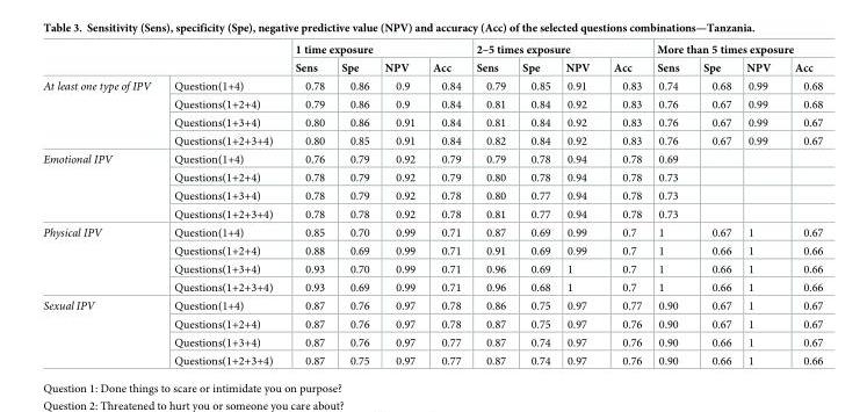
<table><thead><tr><td rowspan="2"></td><td rowspan="2"></td><td colspan="4">1 time exposure</td><td colspan="4">2–5 times exposure</td><td colspan="4">More than 5 times exposure</td></tr><tr><td>Sens</td><td>Spe</td><td>NPV</td><td>Acc</td><td>Sens</td><td>Spe</td><td>NPV</td><td>Acc</td><td>Sens</td><td>Spe</td><td>NPV</td><td>Acc</td></tr></thead><tbody><tr><td rowspan="4">At least one type of IPV</td><td>Question(1+4)</td><td>0.78</td><td>0.86</td><td>0.9</td><td>0.84</td><td>0.79</td><td>0.85</td><td>0.91</td><td>0.83</td><td>0.74</td><td>0.68</td><td>0.99</td><td>0.68</td></tr><tr><td>Questions(1+2+4)</td><td>0.79</td><td>0.86</td><td>0.9</td><td>0.84</td><td>0.81</td><td>0.84</td><td>0.92</td><td>0.83</td><td>0.76</td><td>0.67</td><td>0.99</td><td>0.68</td></tr><tr><td>Questions(1+3+4)</td><td>0.80</td><td>0.86</td><td>0.91</td><td>0.84</td><td>0.81</td><td>0.84</td><td>0.92</td><td>0.83</td><td>0.76</td><td>0.67</td><td>0.99</td><td>0.67</td></tr><tr><td>Questions(1+2+3+4)</td><td>0.80</td><td>0.85</td><td>0.91</td><td>0.84</td><td>0.82</td><td>0.84</td><td>0.92</td><td>0.83</td><td>0.76</td><td>0.67</td><td>0.99</td><td>0.67</td></tr><tr><td rowspan="4">Emotional IPV</td><td>Question(1+4)</td><td>0.76</td><td>0.79</td><td>0.92</td><td>0.79</td><td>0.79</td><td>0.78</td><td>0.94</td><td>0.78</td><td>0.69</td><td></td><td></td><td></td></tr><tr><td>Questions(1+2+4)</td><td>0.78</td><td>0.79</td><td>0.92</td><td>0.79</td><td>0.80</td><td>0.78</td><td>0.94</td><td>0.78</td><td>0.73</td><td></td><td></td><td></td></tr><tr><td>Questions(1+3+4)</td><td>0.78</td><td>0.79</td><td>0.92</td><td>0.78</td><td>0.80</td><td>0.77</td><td>0.94</td><td>0.78</td><td>0.73</td><td></td><td></td><td></td></tr><tr><td>Questions(1+2+3+4)</td><td>0.78</td><td>0.78</td><td>0.92</td><td>0.78</td><td>0.81</td><td>0.77</td><td>0.94</td><td>0.78</td><td>0.73</td><td></td><td></td><td></td></tr><tr><td rowspan="4">Physical IPV</td><td>Question(1+4)</td><td>0.85</td><td>0.70</td><td>0.99</td><td>0.71</td><td>0.87</td><td>0.69</td><td>0.99</td><td>0.7</td><td>1</td><td>0.67</td><td>1</td><td>0.67</td></tr><tr><td>Questions(1+2+4)</td><td>0.88</td><td>0.69</td><td>0.99</td><td>0.71</td><td>0.91</td><td>0.69</td><td>0.99</td><td>0.7</td><td>1</td><td>0.66</td><td>1</td><td>0.66</td></tr><tr><td>Questions(1+3+4)</td><td>0.93</td><td>0.70</td><td>0.99</td><td>0.71</td><td>0.96</td><td>0.69</td><td>1</td><td>0.7</td><td>1</td><td>0.66</td><td>1</td><td>0.66</td></tr><tr><td>Questions(1+2+3+4)</td><td>0.93</td><td>0.69</td><td>0.99</td><td>0.71</td><td>0.96</td><td>0.68</td><td>1</td><td>0.7</td><td>1</td><td>0.66</td><td>1</td><td>0.66</td></tr><tr><td rowspan="4">Sexual IPV</td><td>Question(1+4)</td><td>0.87</td><td>0.76</td><td>0.97</td><td>0.78</td><td>0.86</td><td>0.75</td><td>0.97</td><td>0.77</td><td>0.90</td><td>0.67</td><td>1</td><td>0.67</td></tr><tr><td>Questions(1+2+4)</td><td>0.87</td><td>0.76</td><td>0.97</td><td>0.78</td><td>0.87</td><td>0.75</td><td>0.97</td><td>0.76</td><td>0.90</td><td>0.67</td><td>1</td><td>0.67</td></tr><tr><td>Questions(1+3+4)</td><td>0.87</td><td>0.76</td><td>0.97</td><td>0.77</td><td>0.87</td><td>0.74</td><td>0.97</td><td>0.76</td><td>0.90</td><td>0.66</td><td>1</td><td>0.67</td></tr><tr><td>Questions(1+2+3+4)</td><td>0.87</td><td>0.75</td><td>0.97</td><td>0.77</td><td>0.87</td><td>0.74</td><td>0.97</td><td>0.76</td><td>0.90</td><td>0.66</td><td>1</td><td>0.66</td></tr></tbody></table>